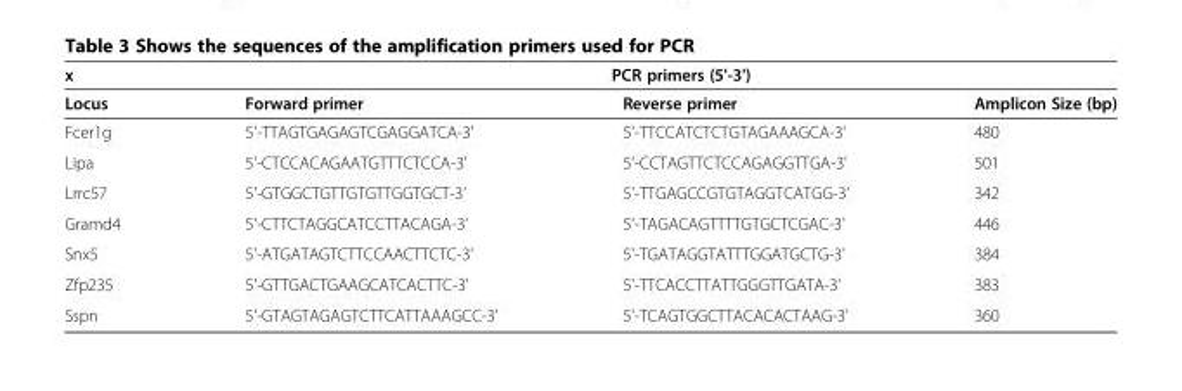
<table><thead><tr><td rowspan="2">x Locus</td><td colspan="3">PCR primers (5&#x27;-3&#x27;)</td></tr><tr><td>Forward primer</td><td>Reverse primer</td><td>Amplicon Size (bp)</td></tr></thead><tbody><tr><td>Fcer1g</td><td>5&#x27;-TTAGTGAGAGTCGAGGATCA-3&#x27;</td><td>5&#x27;-TTCCATCTCTGTAGAAAGCA-3&#x27;</td><td>480</td></tr><tr><td>Lipa</td><td>5&#x27;-CTCCACAGAATGTTTCTCCA-3&#x27;</td><td>5&#x27;-CCTAGTTCTCCAGAGGTTGA-3&#x27;</td><td>501</td></tr><tr><td>Lrrc57</td><td>5&#x27;-GTGGCTGTTGTGTTGGTGCT-3&#x27;</td><td>5&#x27;-TTGAGCCGTGTAGGTCATGG-3&#x27;</td><td>342</td></tr><tr><td>Gramd4</td><td>5&#x27;-CTTCTAGGCATCCTTACAGA-3&#x27;</td><td>5&#x27;-TAGACAGTTTTGTGCTCGAC-3&#x27;</td><td>446</td></tr><tr><td>Snx5</td><td>5&#x27;-ATGATAGTCTTCCAACTTCTC-3&#x27;</td><td>5&#x27;-TGATAGGTATTTGGATGCTG-3&#x27;</td><td>384</td></tr><tr><td>Zfp235</td><td>5&#x27;-GTTGACTGAAGCATCACTTC-3&#x27;</td><td>5&#x27;-TTCACCTTATTGGGTTGATA-3&#x27;</td><td>383</td></tr><tr><td>Sspn</td><td>5&#x27;-GTAGTAGAGTCTTCATTAAAGCC-3&#x27;</td><td>5&#x27;-TCAGTGGCTTACACACTAAG-3&#x27;</td><td>360</td></tr></tbody></table>